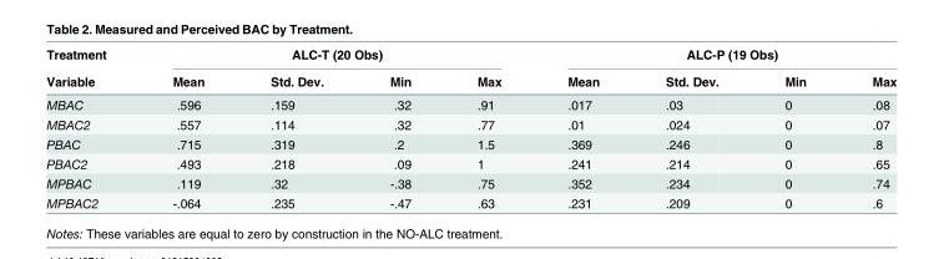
<table><thead><tr><td rowspan="2">Treatment Variable</td><td colspan="4">ALC-T (20 Obs)</td><td colspan="4">ALC-P (19 Obs)</td></tr><tr><td>Mean</td><td>Std. Dev.</td><td>Min</td><td>Max</td><td>Mean</td><td>Std. Dev.</td><td>Min</td><td>Max</td></tr></thead><tbody><tr><td>MBAC</td><td>.596</td><td>.159</td><td>.32</td><td>.91</td><td>.017</td><td>.03</td><td>0</td><td>.08</td></tr><tr><td>MBAC2</td><td>.557</td><td>.114</td><td>.32</td><td>.77</td><td>.01</td><td>.024</td><td>0</td><td>.07</td></tr><tr><td>PBAC</td><td>.715</td><td>.319</td><td>.2</td><td>1.5</td><td>.369</td><td>.246</td><td>0</td><td>.8</td></tr><tr><td>PBAC2</td><td>.493</td><td>.218</td><td>.09</td><td>1</td><td>.241</td><td>.214</td><td>0</td><td>.65</td></tr><tr><td>MPBAC</td><td>.119</td><td>.32</td><td>-.38</td><td>.75</td><td>.352</td><td>.234</td><td>0</td><td>.74</td></tr><tr><td>MPBAC2</td><td>-.064</td><td>.235</td><td>-.47</td><td>.63</td><td>.231</td><td>.209</td><td>0</td><td>.6</td></tr></tbody></table>